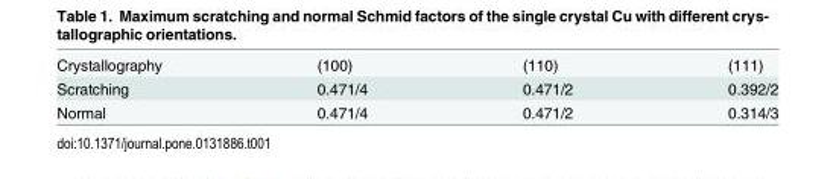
<table><tbody><tr><td>Crystallography</td><td>(100)</td><td>(110)</td><td>(111)</td></tr><tr><td>Scratching</td><td>0.471/4</td><td>0.471/2</td><td>0.392/2</td></tr><tr><td>Normal</td><td>0.471/4</td><td>0.471/2</td><td>0.314/3</td></tr></tbody></table>